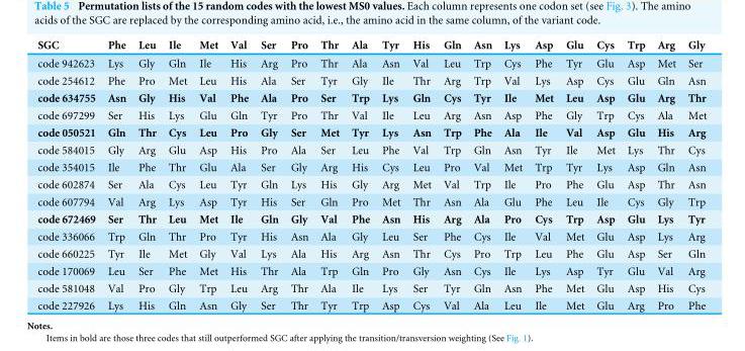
<table><thead><tr><td>SGC</td><td>Phe</td><td>Leu</td><td>Ile</td><td>Met</td><td>Val</td><td>Ser</td><td>Pro</td><td>Thr</td><td>Ala</td><td>Tyr</td><td>His</td><td>Gln</td><td>Asn</td><td>Lys</td><td>Asp</td><td>Glu</td><td>Cys</td><td>Trp</td><td>Arg</td><td>Gly</td></tr></thead><tbody><tr><td>code 942623</td><td>Lys</td><td>Gly</td><td>Gln</td><td>Ile</td><td>His</td><td>Arg</td><td>Pro</td><td>Thr</td><td>Ala</td><td>Asn</td><td>Val</td><td>Leu</td><td>Trp</td><td>Cys</td><td>Phe</td><td>Tyr</td><td>Glu</td><td>Asp</td><td>Met</td><td>Ser</td></tr><tr><td>code 254612</td><td>Phe</td><td>Pro</td><td>Met</td><td>Leu</td><td>His</td><td>Ala</td><td>Ser</td><td>Tyr</td><td>Gly</td><td>Ile</td><td>Thr</td><td>Arg</td><td>Trp</td><td>Val</td><td>Lys</td><td>Asp</td><td>Cys</td><td>Glu</td><td>Gln</td><td>Asn</td></tr><tr><td>code 634755</td><td>Asn</td><td>Gly</td><td>His</td><td>Val</td><td>Phe</td><td>Ala</td><td>Pro</td><td>Ser</td><td>Trp</td><td>Lys</td><td>Gln</td><td>Cys</td><td>Tyr</td><td>Ile</td><td>Met</td><td>Leu</td><td>Asp</td><td>Glu</td><td>Arg</td><td>Thr</td></tr><tr><td>code 697299</td><td>Ser</td><td>His</td><td>Lys</td><td>Glu</td><td>Gln</td><td>Tyr</td><td>Pro</td><td>Thr</td><td>Val</td><td>Ile</td><td>Leu</td><td>Arg</td><td>Asn</td><td>Asp</td><td>Phe</td><td>Gly</td><td>Trp</td><td>Cys</td><td>Ala</td><td>Met</td></tr><tr><td>code 050521</td><td>Gln</td><td>Thr</td><td>Cys</td><td>Leu</td><td>Pro</td><td>Gly</td><td>Ser</td><td>Met</td><td>Tyr</td><td>Lys</td><td>Asn</td><td>Trp</td><td>Phe</td><td>Ala</td><td>Ile</td><td>Val</td><td>Asp</td><td>Glu</td><td>His</td><td>Arg</td></tr><tr><td>code 584015</td><td>Gly</td><td>Arg</td><td>Glu</td><td>Asp</td><td>His</td><td>Pro</td><td>Ala</td><td>Ser</td><td>Leu</td><td>Phe</td><td>Val</td><td>Trp</td><td>Gln</td><td>Asn</td><td>Tyr</td><td>Ile</td><td>Met</td><td>Lys</td><td>Thr</td><td>Cys</td></tr><tr><td>code 354015</td><td>Ile</td><td>Phe</td><td>Thr</td><td>Glu</td><td>Ala</td><td>Ser</td><td>Gly</td><td>Arg</td><td>His</td><td>Cys</td><td>Leu</td><td>Pro</td><td>Val</td><td>Met</td><td>Trp</td><td>Tyr</td><td>Lys</td><td>Asp</td><td>Gln</td><td>Asn</td></tr><tr><td>code 602874</td><td>Ser</td><td>Ala</td><td>Cys</td><td>Leu</td><td>Tyr</td><td>Gln</td><td>Lys</td><td>His</td><td>Gly</td><td>Arg</td><td>Met</td><td>Val</td><td>Trp</td><td>Ile</td><td>Pro</td><td>Phe</td><td>Glu</td><td>Asp</td><td>Thr</td><td>Asn</td></tr><tr><td>code 607794</td><td>Val</td><td>Arg</td><td>Lys</td><td>Asp</td><td>Tyr</td><td>His</td><td>Ser</td><td>Gln</td><td>Pro</td><td>Met</td><td>Thr</td><td>Asn</td><td>Ala</td><td>Glu</td><td>Phe</td><td>Leu</td><td>Ile</td><td>Cys</td><td>Gly</td><td>Trp</td></tr><tr><td>code 672469</td><td>Ser</td><td>Thr</td><td>Leu</td><td>Met</td><td>Ile</td><td>Gln</td><td>Gly</td><td>Val</td><td>Phe</td><td>Asn</td><td>His</td><td>Arg</td><td>Ala</td><td>Pro</td><td>Cys</td><td>Trp</td><td>Asp</td><td>Glu</td><td>Lys</td><td>Tyr</td></tr><tr><td>code 336066</td><td>Trp</td><td>Gln</td><td>Thr</td><td>Pro</td><td>Tyr</td><td>His</td><td>Asn</td><td>Ala</td><td>Gly</td><td>Leu</td><td>Ser</td><td>Phe</td><td>Cys</td><td>Ile</td><td>Val</td><td>Met</td><td>Glu</td><td>Asp</td><td>Lys</td><td>Arg</td></tr><tr><td>code 660225</td><td>Tyr</td><td>Ile</td><td>Met</td><td>Gly</td><td>Val</td><td>Lys</td><td>Ala</td><td>His</td><td>Arg</td><td>Asn</td><td>Thr</td><td>Cys</td><td>Pro</td><td>Trp</td><td>Leu</td><td>Phe</td><td>Glu</td><td>Asp</td><td>Ser</td><td>Gln</td></tr><tr><td>code 170069</td><td>Leu</td><td>Ser</td><td>Phe</td><td>Met</td><td>His</td><td>Thr</td><td>Ala</td><td>Trp</td><td>Gln</td><td>Pro</td><td>Gly</td><td>Asn</td><td>Cys</td><td>Ile</td><td>Lys</td><td>Asp</td><td>Tyr</td><td>Glu</td><td>Val</td><td>Arg</td></tr><tr><td>code 581048</td><td>Val</td><td>Pro</td><td>Gly</td><td>Trp</td><td>Leu</td><td>Arg</td><td>Thr</td><td>Ala</td><td>Ile</td><td>Lys</td><td>Ser</td><td>Tyr</td><td>Gln</td><td>Asn</td><td>Phe</td><td>Met</td><td>Glu</td><td>Asp</td><td>His</td><td>Cys</td></tr><tr><td>code 227926</td><td>Lys</td><td>His</td><td>Gln</td><td>Asn</td><td>Gly</td><td>Ser</td><td>Thr</td><td>Tyr</td><td>Trp</td><td>Asp</td><td>Cys</td><td>Val</td><td>Ala</td><td>Leu</td><td>Ile</td><td>Met</td><td>Glu</td><td>Arg</td><td>Pro</td><td>Phe</td></tr></tbody></table>